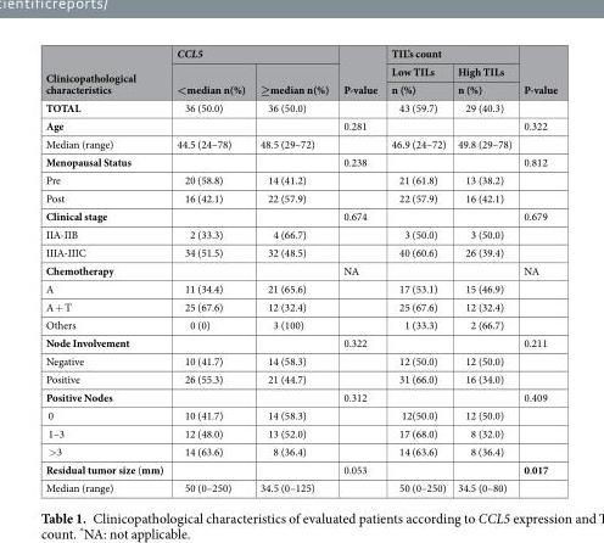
<table><thead><tr><td rowspan="3">Clinicopathological characteristics</td><td colspan="2">CCL5</td><td rowspan="3">P-value</td><td colspan="2">TIL’s count</td><td rowspan="3">P-value</td></tr><tr><td rowspan="2">&lt;median n(%)</td><td rowspan="2">≥median n(%)</td><td rowspan="2">Low TILs n (%)</td><td rowspan="2">High TILs n (%)</td></tr><tr></tr></thead><tbody><tr><td>TOTAL</td><td>36 (50.0)</td><td>36 (50.0)</td><td></td><td>43 (59.7)</td><td>29 (40.3)</td><td></td></tr><tr><td>Age</td><td></td><td></td><td>0.281</td><td></td><td></td><td>0.322</td></tr><tr><td>Median (range)</td><td>44.5 (24–78)</td><td>48.5 (29–72)</td><td></td><td>46.9 (24–72)</td><td>49.8 (29–78)</td><td></td></tr><tr><td>Menopausal Status</td><td></td><td></td><td>0.238</td><td></td><td></td><td>0.812</td></tr><tr><td>Pre</td><td>20 (58.8)</td><td>14 (41.2)</td><td></td><td>21 (61.8)</td><td>13 (38.2)</td><td></td></tr><tr><td>Post</td><td>16 (42.1)</td><td>22 (57.9)</td><td></td><td>22 (57.9)</td><td>16 (42.1)</td><td></td></tr><tr><td>Clinical stage</td><td></td><td></td><td>0.674</td><td></td><td></td><td>0.679</td></tr><tr><td>IIA-IIB</td><td>2 (33.3)</td><td>4 (66.7)</td><td></td><td>3 (50.0)</td><td>3 (50.0)</td><td></td></tr><tr><td>IIIA-IIIC</td><td>34 (51.5)</td><td>32 (48.5)</td><td></td><td>40 (60.6)</td><td>26 (39.4)</td><td></td></tr><tr><td>Chemotherapy</td><td></td><td></td><td>NA</td><td></td><td></td><td>NA</td></tr><tr><td>A</td><td>11 (34.4)</td><td>21 (65.6)</td><td></td><td>17 (53.1)</td><td>15 (46.9)</td><td></td></tr><tr><td>A + T</td><td>25 (67.6)</td><td>12 (32.4)</td><td></td><td>25 (67.6)</td><td>12 (32.4)</td><td></td></tr><tr><td>Others</td><td>0 (0)</td><td>3 (100)</td><td></td><td>1 (33.3)</td><td>2 (66.7)</td><td></td></tr><tr><td>Node Involvement</td><td></td><td></td><td>0.322</td><td></td><td></td><td>0.211</td></tr><tr><td>Negative</td><td>10 (41.7)</td><td>14 (58.3)</td><td></td><td>12 (50.0)</td><td>12 (50.0)</td><td></td></tr><tr><td>Positive</td><td>26 (55.3)</td><td>21 (44.7)</td><td></td><td>31 (66.0)</td><td>16 (34.0)</td><td></td></tr><tr><td>Positive Nodes</td><td></td><td></td><td>0.312</td><td></td><td></td><td>0.409</td></tr><tr><td>0</td><td>10 (41.7)</td><td>14 (58.3)</td><td></td><td>12(50.0)</td><td>12 (50.0)</td><td></td></tr><tr><td>1–3</td><td>12 (48.0)</td><td>13 (52.0)</td><td></td><td>17 (68.0)</td><td>8 (32.0)</td><td></td></tr><tr><td>&gt;3</td><td>14 (63.6)</td><td>8 (36.4)</td><td></td><td>14 (63.6)</td><td>8 (36.4)</td><td></td></tr><tr><td>Residual tumor size (mm)</td><td></td><td></td><td>0.053</td><td></td><td></td><td>0.017</td></tr><tr><td>Median (range)</td><td>50 (0–250)</td><td>34.5 (0–125)</td><td></td><td>50 (0–250)</td><td>34.5 (0–80)</td><td></td></tr></tbody></table>